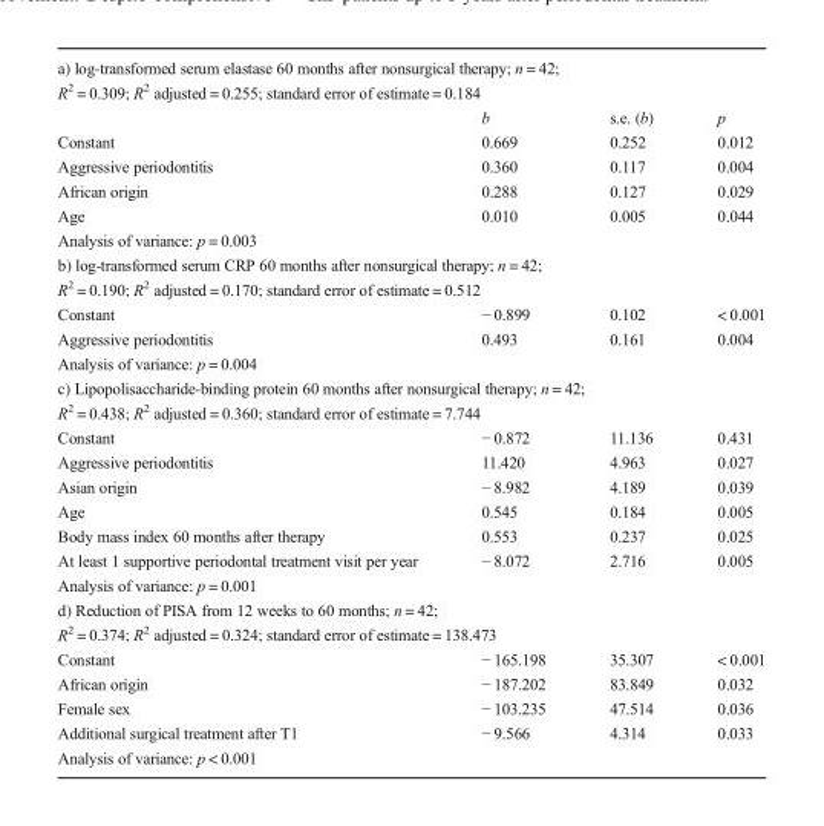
<table><tbody><tr><td colspan="4">a) log-transformed serum elastase 60 months after nonsurgical therapy; n = 42; R<sup>2</sup> = 0.309; R<sup>2</sup> adjusted = 0.255; standard error of estimate = 0.184</td></tr><tr><td></td><td>b</td><td>s.e. (b)</td><td>p</td></tr><tr><td>Constant</td><td>0.669</td><td>0.252</td><td>0.012</td></tr><tr><td>Aggressive periodontitis</td><td>0.360</td><td>0.117</td><td>0.004</td></tr><tr><td>African origin</td><td>0.288</td><td>0.127</td><td>0.029</td></tr><tr><td>Age</td><td>0.010</td><td>0.005</td><td>0.044</td></tr><tr><td colspan="4">Analysis of variance: p = 0.003</td></tr><tr><td colspan="4">b) log-transformed serum CRP 60 months after nonsurgical therapy; n = 42; R<sup>2</sup> = 0.190; R<sup>2</sup> adjusted = 0.170; standard error of estimate = 0.512</td></tr><tr><td>Constant</td><td>− 0.899</td><td>0.102</td><td>&lt; 0.001</td></tr><tr><td>Aggressive periodontitis</td><td>0.493</td><td>0.161</td><td>0.004</td></tr><tr><td colspan="4">Analysis of variance: p = 0.004</td></tr><tr><td colspan="4">c) Lipopolisaccharide-binding protein 60 months after nonsurgical therapy; n = 42; R<sup>2</sup> = 0.438; R<sup>2</sup> adjusted = 0.360; standard error of estimate = 7.744</td></tr><tr><td>Constant</td><td>− 0.872</td><td>11.136</td><td>0.431</td></tr><tr><td>Aggressive periodontitis</td><td>11.420</td><td>4.963</td><td>0.027</td></tr><tr><td>Asian origin</td><td>− 8.982</td><td>4.189</td><td>0.039</td></tr><tr><td>Age</td><td>0.545</td><td>0.184</td><td>0.005</td></tr><tr><td>Body mass index 60 months after therapy</td><td>0.553</td><td>0.237</td><td>0.025</td></tr><tr><td>At least 1 supportive periodontal treatment visit per year</td><td>− 8.072</td><td>2.716</td><td>0.005</td></tr><tr><td colspan="4">Analysis of variance: p = 0.001</td></tr><tr><td colspan="4">d) Reduction of PISA from 12 weeks to 60 months; n = 42; R<sup>2</sup> = 0.374; R<sup>2</sup> adjusted = 0.324; standard error of estimate = 138.473</td></tr><tr><td>Constant</td><td>− 165.198</td><td>35.307</td><td>&lt; 0.001</td></tr><tr><td>African origin</td><td>− 187.202</td><td>83.849</td><td>0.032</td></tr><tr><td>Female sex</td><td>− 103.235</td><td>47.514</td><td>0.036</td></tr><tr><td>Additional surgical treatment after T1</td><td>− 9.566</td><td>4.314</td><td>0.033</td></tr><tr><td colspan="4">Analysis of variance: p &lt; 0.001</td></tr></tbody></table>